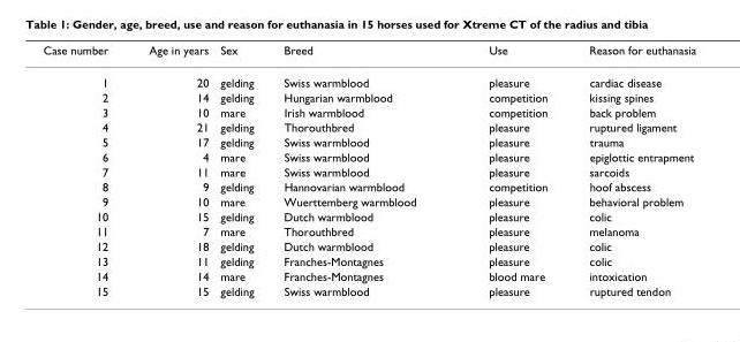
<table><thead><tr><td>Case number</td><td>Age in years</td><td>Sex</td><td>Breed</td><td>Use</td><td>Reason for euthanasia</td></tr></thead><tbody><tr><td>1</td><td>20</td><td>gelding</td><td>Swiss warmblood</td><td>pleasure</td><td>cardiac disease</td></tr><tr><td>2</td><td>14</td><td>gelding</td><td>Hungarian warmblood</td><td>competition</td><td>kissing spines</td></tr><tr><td>3</td><td>10</td><td>mare</td><td>Irish warmblood</td><td>competition</td><td>back problem</td></tr><tr><td>4</td><td>21</td><td>gelding</td><td>Thorouthbred</td><td>pleasure</td><td>ruptured ligament</td></tr><tr><td>5</td><td>17</td><td>gelding</td><td>Swiss warmblood</td><td>pleasure</td><td>trauma</td></tr><tr><td>6</td><td>4</td><td>mare</td><td>Swiss warmblood</td><td>pleasure</td><td>epiglottic entrapment</td></tr><tr><td>7</td><td>11</td><td>mare</td><td>Swiss warmblood</td><td>pleasure</td><td>sarcoids</td></tr><tr><td>8</td><td>9</td><td>gelding</td><td>Hannovarian warmblood</td><td>competition</td><td>hoof abscess</td></tr><tr><td>9</td><td>10</td><td>mare</td><td>Wuerttemberg warmblood</td><td>pleasure</td><td>behavioral problem</td></tr><tr><td>10</td><td>15</td><td>gelding</td><td>Dutch warmblood</td><td>pleasure</td><td>colic</td></tr><tr><td>11</td><td>7</td><td>mare</td><td>Thorouthbred</td><td>pleasure</td><td>melanoma</td></tr><tr><td>12</td><td>18</td><td>gelding</td><td>Dutch warmblood</td><td>pleasure</td><td>colic</td></tr><tr><td>13</td><td>11</td><td>gelding</td><td>Franches-Montagnes</td><td>pleasure</td><td>colic</td></tr><tr><td>14</td><td>14</td><td>mare</td><td>Franches-Montagnes</td><td>blood mare</td><td>intoxication</td></tr><tr><td>15</td><td>15</td><td>gelding</td><td>Swiss warmblood</td><td>pleasure</td><td>ruptured tendon</td></tr></tbody></table>